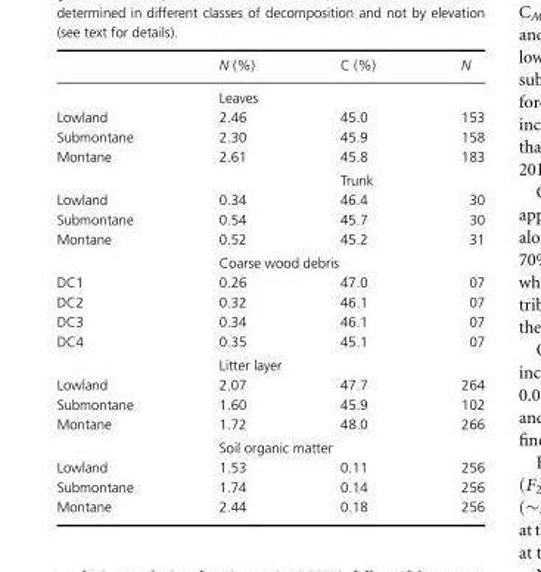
<table><thead><tr><td></td><td>N (%)</td><td>C (%)</td><td>N</td></tr></thead><tbody><tr><td></td><td colspan="3">Leaves</td></tr><tr><td>Lowland</td><td>2.46</td><td>45.0</td><td>153</td></tr><tr><td>Submontane</td><td>2.30</td><td>45.9</td><td>158</td></tr><tr><td rowspan="2">Montane</td><td>2.61</td><td>45.8</td><td>183</td></tr><tr><td></td><td colspan="2">Trunk</td></tr><tr><td>Lowland</td><td>0.34</td><td>46.4</td><td>30</td></tr><tr><td>Submontane</td><td>0.54</td><td>45.7</td><td>30</td></tr><tr><td rowspan="2">Montane</td><td>0.52</td><td>45.2</td><td>31</td></tr><tr><td colspan="3">Coarse wood debris</td></tr><tr><td>DC1</td><td>0.26</td><td>47.0</td><td>07</td></tr><tr><td>DC2</td><td>0.32</td><td>46.1</td><td>07</td></tr><tr><td>DC3</td><td>0.34</td><td>46.1</td><td>07</td></tr><tr><td rowspan="2">DC4</td><td>0.35</td><td>45.1</td><td>07</td></tr><tr><td colspan="3">Litter layer</td></tr><tr><td>Lowland</td><td>2.07</td><td>47.7</td><td>264</td></tr><tr><td>Submontane</td><td>1.60</td><td>45.9</td><td>102</td></tr><tr><td rowspan="2">Montane</td><td>1.72</td><td>48.0</td><td>266</td></tr><tr><td colspan="3">Soil organic matter</td></tr><tr><td>Lowland</td><td>1.53</td><td>0.11</td><td>256</td></tr><tr><td>Submontane</td><td>1.74</td><td>0.14</td><td>256</td></tr><tr><td>Montane</td><td>2.44</td><td>0.18</td><td>256</td></tr></tbody></table>